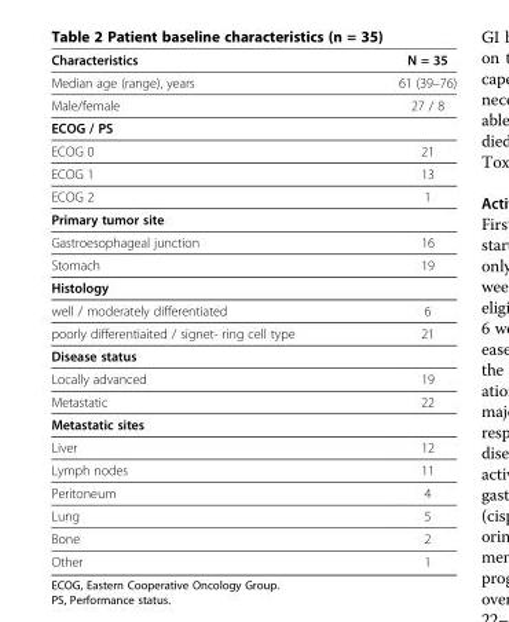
<table><thead><tr><td>Characteristics</td><td>N = 35</td></tr></thead><tbody><tr><td>Median age (range), years</td><td>61 (39–76)</td></tr><tr><td>Male/female</td><td>27 / 8</td></tr><tr><td colspan="2">ECOG / PS</td></tr><tr><td>ECOG 0</td><td>21</td></tr><tr><td>ECOG 1</td><td>13</td></tr><tr><td>ECOG 2</td><td>1</td></tr><tr><td colspan="2">Primary tumor site</td></tr><tr><td>Gastroesophageal junction</td><td>16</td></tr><tr><td>Stomach</td><td>19</td></tr><tr><td colspan="2">Histology</td></tr><tr><td>well / moderately differentiated</td><td>6</td></tr><tr><td>poorly differentiaited / signet- ring cell type</td><td>21</td></tr><tr><td colspan="2">Disease status</td></tr><tr><td>Locally advanced</td><td>19</td></tr><tr><td>Metastatic</td><td>22</td></tr><tr><td colspan="2">Metastatic sites</td></tr><tr><td>Liver</td><td>12</td></tr><tr><td>Lymph nodes</td><td>11</td></tr><tr><td>Peritoneum</td><td>4</td></tr><tr><td>Lung</td><td>5</td></tr><tr><td>Bone</td><td>2</td></tr><tr><td>Other</td><td>1</td></tr></tbody></table>